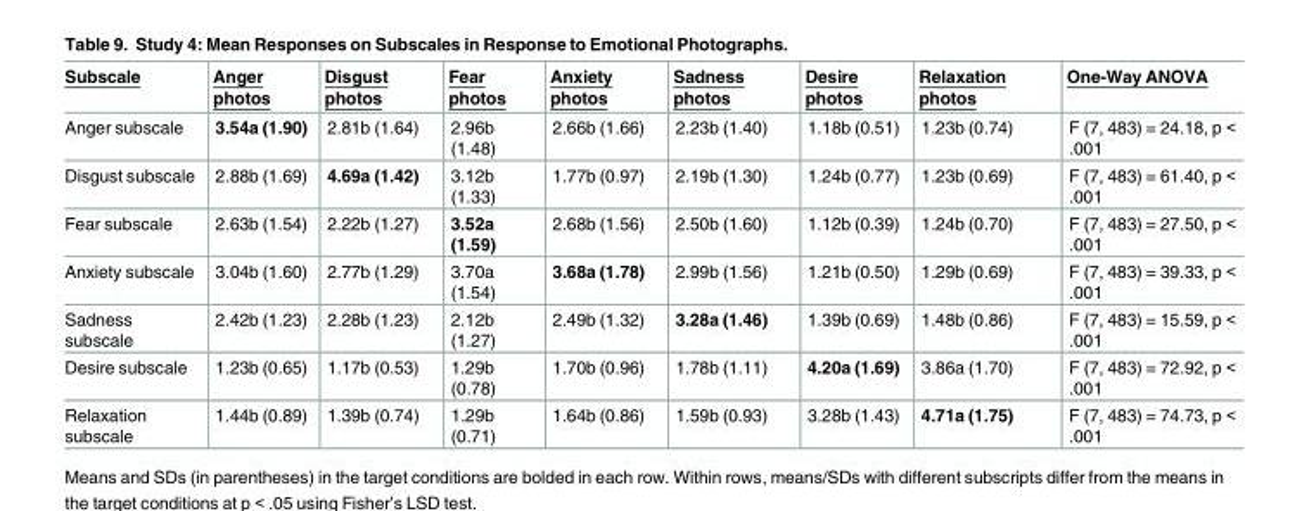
<table><thead><tr><td>Subscale</td><td>Anger photos</td><td>Disgust photos</td><td>Fear photos</td><td>Anxiety photos</td><td>Sadness photos</td><td>Desire photos</td><td>Relaxation photos</td><td>One-Way ANOVA</td></tr></thead><tbody><tr><td>Anger subscale</td><td>3.54a (1.90)</td><td>2.81b (1.64)</td><td>2.96b (1.48)</td><td>2.66b (1.66)</td><td>2.23b (1.40)</td><td>1.18b (0.51)</td><td>1.23b (0.74)</td><td>F (7, 483) = 24.18, p &lt; .001</td></tr><tr><td>Disgust subscale</td><td>2.88b (1.69)</td><td>4.69a (1.42)</td><td>3.12b (1.33)</td><td>1.77b (0.97)</td><td>2.19b (1.30)</td><td>1.24b (0.77)</td><td>1.23b (0.69)</td><td>F (7, 483) = 61.40, p &lt; .001</td></tr><tr><td>Fear subscale</td><td>2.63b (1.54)</td><td>2.22b (1.27)</td><td>3.52a (1.59)</td><td>2.68b (1.56)</td><td>2.50b (1.60)</td><td>1.12b (0.39)</td><td>1.24b (0.70)</td><td>F (7, 483) = 27.50, p &lt; .001</td></tr><tr><td>Anxiety subscale</td><td>3.04b (1.60)</td><td>2.77b (1.29)</td><td>3.70a (1.54)</td><td>3.68a (1.78)</td><td>2.99b (1.56)</td><td>1.21b (0.50)</td><td>1.29b (0.69)</td><td>F (7, 483) = 39.33, p &lt; .001</td></tr><tr><td>Sadness subscale</td><td>2.42b (1.23)</td><td>2.28b (1.23)</td><td>2.12b (1.27)</td><td>2.49b (1.32)</td><td>3.28a (1.46)</td><td>1.39b (0.69)</td><td>1.48b (0.86)</td><td>F (7, 483) = 15.59, p &lt; .001</td></tr><tr><td>Desire subscale</td><td>1.23b (0.65)</td><td>1.17b (0.53)</td><td>1.29b (0.78)</td><td>1.70b (0.96)</td><td>1.78b (1.11)</td><td>4.20a (1.69)</td><td>3.86a (1.70)</td><td>F (7, 483) = 72.92, p &lt; .001</td></tr><tr><td>Relaxation subscale</td><td>1.44b (0.89)</td><td>1.39b (0.74)</td><td>1.29b (0.71)</td><td>1.64b (0.86)</td><td>1.59b (0.93)</td><td>3.28b (1.43)</td><td>4.71a (1.75)</td><td>F (7, 483) = 74.73, p &lt; .001</td></tr></tbody></table>